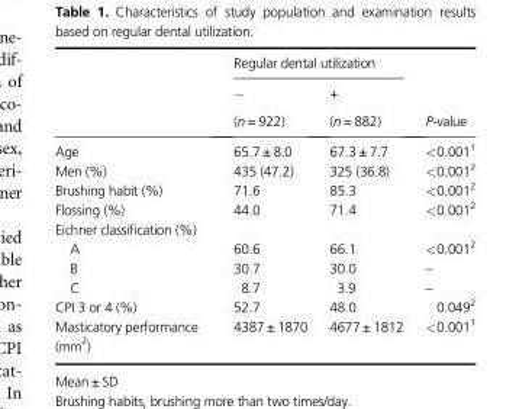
<table><thead><tr><td rowspan="3"></td><td colspan="2">Regular dental utilization</td><td rowspan="3">P-value</td></tr><tr><td rowspan="2">− (n = 922)</td><td rowspan="2">+ (n = 882)</td></tr><tr></tr></thead><tbody><tr><td>Age</td><td>65.7 ± 8.0</td><td>67.3 ± 7.7</td><td>&lt;0.0011</td></tr><tr><td>Men (%)</td><td>435 (47.2)</td><td>325 (36.8)</td><td>&lt;0.0012</td></tr><tr><td>Brushing habit (%)</td><td>71.6</td><td>85.3</td><td>&lt;0.0012</td></tr><tr><td>Flossing (%)</td><td>44.0</td><td>71.4</td><td>&lt;0.0012</td></tr><tr><td colspan="4">Eichner classification (%)</td></tr><tr><td>A</td><td>60.6</td><td>66.1</td><td>&lt;0.0012</td></tr><tr><td>B</td><td>30.7</td><td>30.0</td><td>–</td></tr><tr><td>C</td><td>8.7</td><td>3.9</td><td>–</td></tr><tr><td>CPI 3 or 4 (%)</td><td>52.7</td><td>48.0</td><td>0.0492</td></tr><tr><td>Masticatory performance (mm<sup>2</sup>)</td><td>4387 ± 1870</td><td>4677 ± 1812</td><td>&lt;0.0011</td></tr></tbody></table>